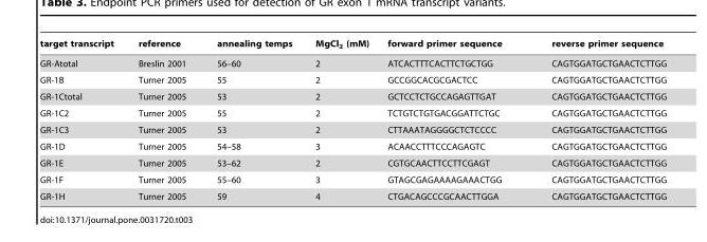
<table><thead><tr><td>target transcript</td><td>reference</td><td>annealing temps</td><td>MgCl<sub>2</sub> (mM)</td><td>forward primer sequence</td><td>reverse primer sequence</td></tr></thead><tbody><tr><td>GR-Atotal</td><td>Breslin 2001</td><td>56–60</td><td>2</td><td>ATCACTTTCACTTCTGCTGG</td><td>CAGTGGATGCTGAACTCTTGG</td></tr><tr><td>GR-1B</td><td>Turner 2005</td><td>55</td><td>2</td><td>GCCGGCACGCGACTCC</td><td>CAGTGGATGCTGAACTCTTGG</td></tr><tr><td>GR-1Ctotal</td><td>Turner 2005</td><td>53</td><td>2</td><td>GCTCCTCTGCCAGAGTTGAT</td><td>CAGTGGATGCTGAACTCTTGG</td></tr><tr><td>GR-1C2</td><td>Turner 2005</td><td>55</td><td>2</td><td>TCTGTCTGTGACGGATTCTGC</td><td>CAGTGGATGCTGAACTCTTGG</td></tr><tr><td>GR-1C3</td><td>Turner 2005</td><td>53</td><td>2</td><td>CTTAAATAGGGGCTCTCCCC</td><td>CAGTGGATGCTGAACTCTTGG</td></tr><tr><td>GR-1D</td><td>Turner 2005</td><td>54–58</td><td>3</td><td>ACAACCTTTCCCAGAGTC</td><td>CAGTGGATGCTGAACTCTTGG</td></tr><tr><td>GR-1E</td><td>Turner 2005</td><td>53–62</td><td>2</td><td>CGTGCAACTTCCTTCGAGT</td><td>CAGTGGATGCTGAACTCTTGG</td></tr><tr><td>GR-1F</td><td>Turner 2005</td><td>55–60</td><td>3</td><td>GTAGCGAGAAAAGAAACTGG</td><td>CAGTGGATGCTGAACTCTTGG</td></tr><tr><td>GR-1H</td><td>Turner 2005</td><td>59</td><td>4</td><td>CTGACAGCCCGCAACTTGGA</td><td>CAGTGGATGCTGAACTCTTGG</td></tr></tbody></table>